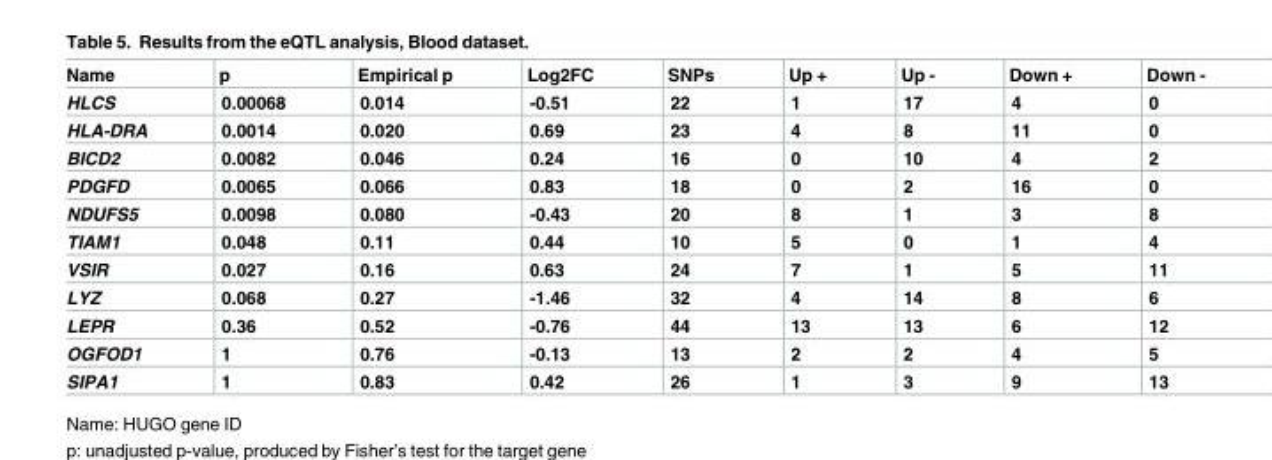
<table><thead><tr><td>Name</td><td>p</td><td>Empirical p</td><td>Log2FC</td><td>SNPs</td><td>Up +</td><td>Up -</td><td>Down +</td><td>Down -</td></tr></thead><tbody><tr><td>HLCS</td><td>0.00068</td><td>0.014</td><td>-0.51</td><td>22</td><td>1</td><td>17</td><td>4</td><td>0</td></tr><tr><td>HLA-DRA</td><td>0.0014</td><td>0.020</td><td>0.69</td><td>23</td><td>4</td><td>8</td><td>11</td><td>0</td></tr><tr><td>BICD2</td><td>0.0082</td><td>0.046</td><td>0.24</td><td>16</td><td>0</td><td>10</td><td>4</td><td>2</td></tr><tr><td>PDGFD</td><td>0.0065</td><td>0.066</td><td>0.83</td><td>18</td><td>0</td><td>2</td><td>16</td><td>0</td></tr><tr><td>NDUFS5</td><td>0.0098</td><td>0.080</td><td>-0.43</td><td>20</td><td>8</td><td>1</td><td>3</td><td>8</td></tr><tr><td>TIAM1</td><td>0.048</td><td>0.11</td><td>0.44</td><td>10</td><td>5</td><td>0</td><td>1</td><td>4</td></tr><tr><td>VSIR</td><td>0.027</td><td>0.16</td><td>0.63</td><td>24</td><td>7</td><td>1</td><td>5</td><td>11</td></tr><tr><td>LYZ</td><td>0.068</td><td>0.27</td><td>-1.46</td><td>32</td><td>4</td><td>14</td><td>8</td><td>6</td></tr><tr><td>LEPR</td><td>0.36</td><td>0.52</td><td>-0.76</td><td>44</td><td>13</td><td>13</td><td>6</td><td>12</td></tr><tr><td>OGFOD1</td><td>1</td><td>0.76</td><td>-0.13</td><td>13</td><td>2</td><td>2</td><td>4</td><td>5</td></tr><tr><td>SIPA1</td><td>1</td><td>0.83</td><td>0.42</td><td>26</td><td>1</td><td>3</td><td>9</td><td>13</td></tr></tbody></table>